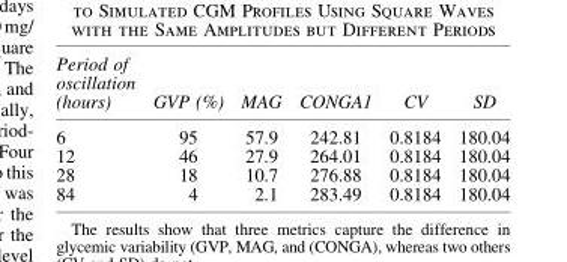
<table><thead><tr><td>Period of oscillation (hours)</td><td>GVP (%)</td><td>MAG</td><td>CONGA1</td><td>CV</td><td>SD</td></tr></thead><tbody><tr><td>6</td><td>95</td><td>57.9</td><td>242.81</td><td>0.8184</td><td>180.04</td></tr><tr><td>12</td><td>46</td><td>27.9</td><td>264.01</td><td>0.8184</td><td>180.04</td></tr><tr><td>28</td><td>18</td><td>10.7</td><td>276.88</td><td>0.8184</td><td>180.04</td></tr><tr><td>84</td><td>4</td><td>2.1</td><td>283.49</td><td>0.8184</td><td>180.04</td></tr></tbody></table>